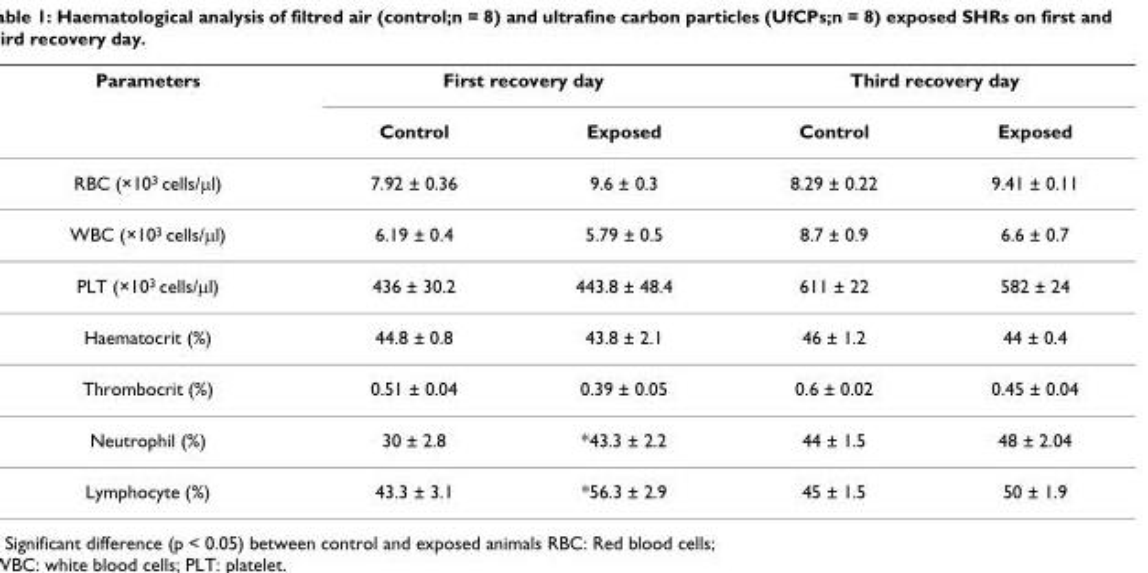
<table><thead><tr><td rowspan="2">Parameters</td><td colspan="2">First recovery day</td><td colspan="2">Third recovery day</td></tr><tr><td>Control</td><td>Exposed</td><td>Control</td><td>Exposed</td></tr></thead><tbody><tr><td>RBC (×10<sup>3</sup> cells/μl)</td><td>7.92 ± 0.36</td><td>9.6 ± 0.3</td><td>8.29 ± 0.22</td><td>9.41 ± 0.11</td></tr><tr><td>WBC (×10<sup>3</sup> cells/μl)</td><td>6.19 ± 0.4</td><td>5.79 ± 0.5</td><td>8.7 ± 0.9</td><td>6.6 ± 0.7</td></tr><tr><td>PLT (×10<sup>3</sup> cells/μl)</td><td>436 ± 30.2</td><td>443.8 ± 48.4</td><td>611 ± 22</td><td>582 ± 24</td></tr><tr><td>Haematocrit (%)</td><td>44.8 ± 0.8</td><td>43.8 ± 2.1</td><td>46 ± 1.2</td><td>44 ± 0.4</td></tr><tr><td>Thrombocrit (%)</td><td>0.51 ± 0.04</td><td>0.39 ± 0.05</td><td>0.6 ± 0.02</td><td>0.45 ± 0.04</td></tr><tr><td>Neutrophil (%)</td><td>30 ± 2.8</td><td>*43.3 ± 2.2</td><td>44 ± 1.5</td><td>48 ± 2.04</td></tr><tr><td>Lymphocyte (%)</td><td>43.3 ± 3.1</td><td>*56.3 ± 2.9</td><td>45 ± 1.5</td><td>50 ± 1.9</td></tr></tbody></table>